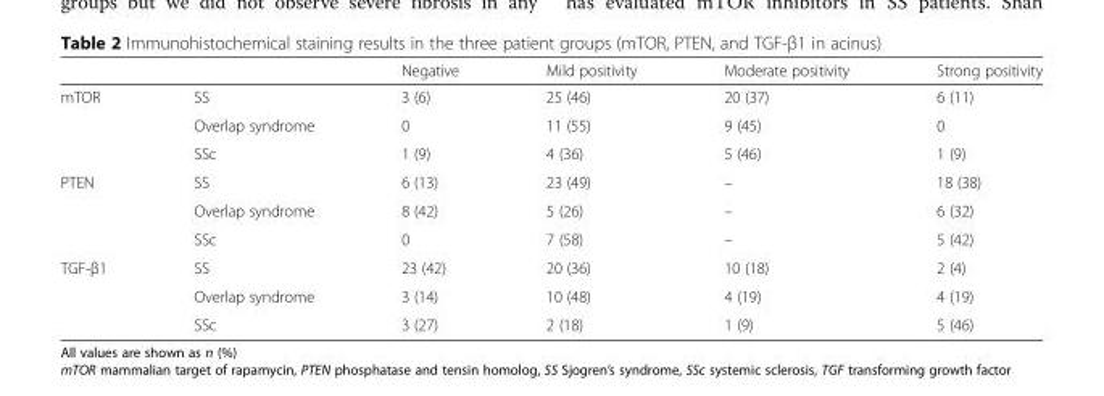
<table><thead><tr><td></td><td></td><td>Negative</td><td>Mild positivity</td><td>Moderate positivity</td><td>Strong positivity</td></tr></thead><tbody><tr><td rowspan="3">mTOR</td><td>SS</td><td>3 (6)</td><td>25 (46)</td><td>20 (37)</td><td>6 (11)</td></tr><tr><td>Overlap syndrome</td><td>0</td><td>11 (55)</td><td>9 (45)</td><td>0</td></tr><tr><td>SSc</td><td>1 (9)</td><td>4 (36)</td><td>5 (46)</td><td>1 (9)</td></tr><tr><td rowspan="3">PTEN</td><td>SS</td><td>6 (13)</td><td>23 (49)</td><td>–</td><td>18 (38)</td></tr><tr><td>Overlap syndrome</td><td>8 (42)</td><td>5 (26)</td><td>–</td><td>6 (32)</td></tr><tr><td>SSc</td><td>0</td><td>7 (58)</td><td>–</td><td>5 (42)</td></tr><tr><td rowspan="3">TGF-β1</td><td>SS</td><td>23 (42)</td><td>20 (36)</td><td>10 (18)</td><td>2 (4)</td></tr><tr><td>Overlap syndrome</td><td>3 (14)</td><td>10 (48)</td><td>4 (19)</td><td>4 (19)</td></tr><tr><td>SSc</td><td>3 (27)</td><td>2 (18)</td><td>1 (9)</td><td>5 (46)</td></tr></tbody></table>